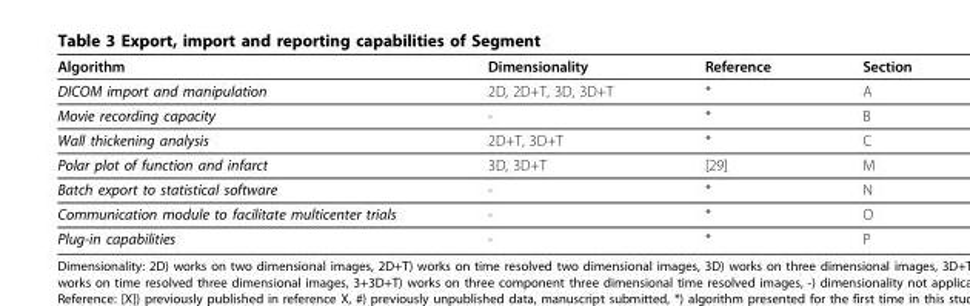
<table><thead><tr><td>Algorithm</td><td>Dimensionality</td><td>Reference</td><td>Section</td></tr></thead><tbody><tr><td>DICOM import and manipulation</td><td>2D, 2D+T, 3D, 3D+T</td><td>*</td><td>A</td></tr><tr><td>Movie recording capacity</td><td>-</td><td>*</td><td>B</td></tr><tr><td>Wall thickening analysis</td><td>2D+T, 3D+T</td><td>*</td><td>C</td></tr><tr><td>Polar plot of function and infarct</td><td>3D, 3D+T</td><td>[29]</td><td>M</td></tr><tr><td>Batch export to statistical software</td><td>-</td><td>*</td><td>N</td></tr><tr><td>Communication module to facilitate multicenter trials</td><td>-</td><td>*</td><td>O</td></tr><tr><td>Plug-in capabilities</td><td>-</td><td>*</td><td>P</td></tr></tbody></table>